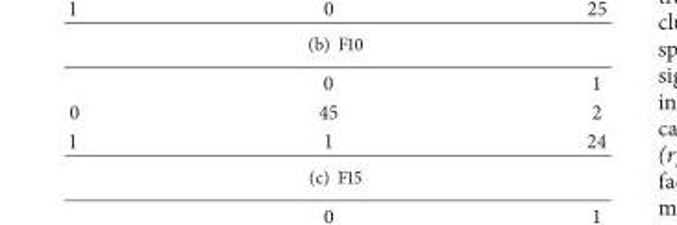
<table><thead><tr><td></td><td>0</td><td>1</td></tr></thead><tbody><tr><td>0</td><td>45</td><td>2</td></tr><tr><td>1</td><td>1</td><td>24</td></tr></tbody></table>